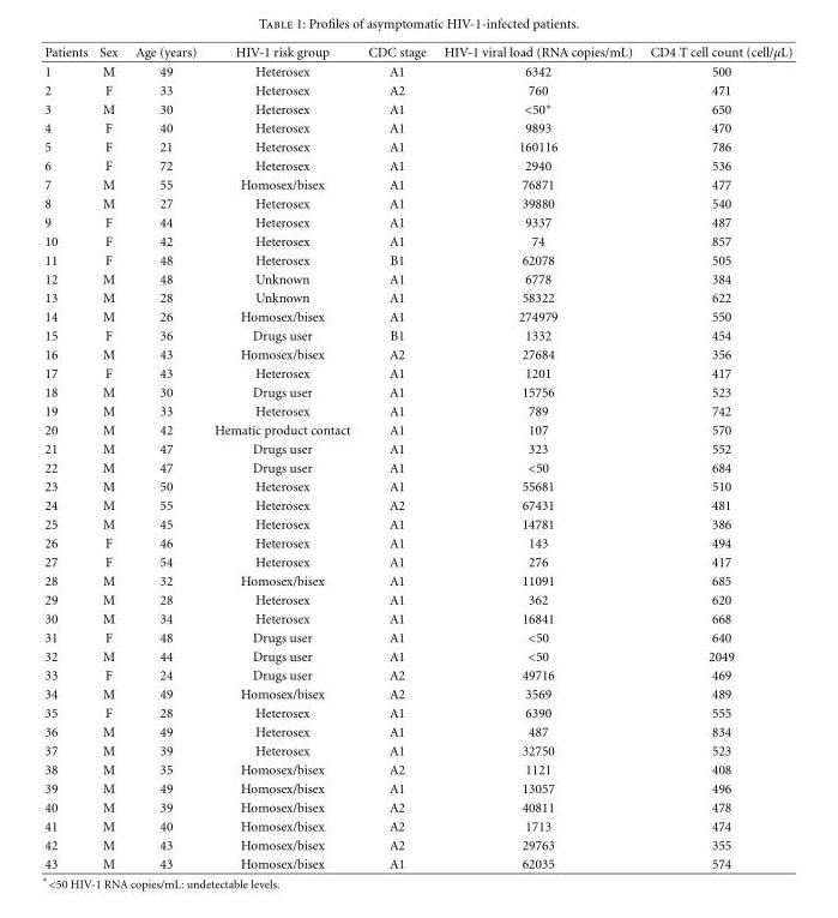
<table><thead><tr><td>Patients</td><td>Sex</td><td>Age (years)</td><td>HIV-1 risk group</td><td>CDC stage</td><td>HIV-1 viral load (RNA copies/mL)</td><td>CD4 T cell count (cell/μL)</td></tr></thead><tbody><tr><td>1</td><td>M</td><td>49</td><td>Heterosex</td><td>A1</td><td>6342</td><td>500</td></tr><tr><td>2</td><td>F</td><td>33</td><td>Heterosex</td><td>A2</td><td>760</td><td>471</td></tr><tr><td>3</td><td>M</td><td>30</td><td>Heterosex</td><td>A1</td><td>&lt;50∗</td><td>650</td></tr><tr><td>4</td><td>F</td><td>40</td><td>Heterosex</td><td>A1</td><td>9893</td><td>470</td></tr><tr><td>5</td><td>F</td><td>21</td><td>Heterosex</td><td>A1</td><td>160116</td><td>786</td></tr><tr><td>6</td><td>F</td><td>72</td><td>Heterosex</td><td>A1</td><td>2940</td><td>536</td></tr><tr><td>7</td><td>M</td><td>55</td><td>Homosex/bisex</td><td>A1</td><td>76871</td><td>477</td></tr><tr><td>8</td><td>M</td><td>27</td><td>Heterosex</td><td>A1</td><td>39880</td><td>540</td></tr><tr><td>9</td><td>F</td><td>44</td><td>Heterosex</td><td>A1</td><td>9337</td><td>487</td></tr><tr><td>10</td><td>F</td><td>42</td><td>Heterosex</td><td>A1</td><td>74</td><td>857</td></tr><tr><td>11</td><td>F</td><td>48</td><td>Heterosex</td><td>B1</td><td>62078</td><td>505</td></tr><tr><td>12</td><td>M</td><td>48</td><td>Unknown</td><td>A1</td><td>6778</td><td>384</td></tr><tr><td>13</td><td>M</td><td>28</td><td>Unknown</td><td>A1</td><td>58322</td><td>622</td></tr><tr><td>14</td><td>M</td><td>26</td><td>Homosex/bisex</td><td>A1</td><td>274979</td><td>550</td></tr><tr><td>15</td><td>F</td><td>36</td><td>Drugs user</td><td>B1</td><td>1332</td><td>454</td></tr><tr><td>16</td><td>M</td><td>43</td><td>Homosex/bisex</td><td>A2</td><td>27684</td><td>356</td></tr><tr><td>17</td><td>F</td><td>43</td><td>Heterosex</td><td>A1</td><td>1201</td><td>417</td></tr><tr><td>18</td><td>M</td><td>30</td><td>Drugs user</td><td>A1</td><td>15756</td><td>523</td></tr><tr><td>19</td><td>M</td><td>33</td><td>Heterosex</td><td>A1</td><td>789</td><td>742</td></tr><tr><td>20</td><td>M</td><td>42</td><td>Hematic product contact</td><td>A1</td><td>107</td><td>570</td></tr><tr><td>21</td><td>M</td><td>47</td><td>Drugs user</td><td>A1</td><td>323</td><td>552</td></tr><tr><td>22</td><td>M</td><td>47</td><td>Drugs user</td><td>A1</td><td>&lt;50</td><td>684</td></tr><tr><td>23</td><td>M</td><td>50</td><td>Heterosex</td><td>A1</td><td>55681</td><td>510</td></tr><tr><td>24</td><td>M</td><td>55</td><td>Heterosex</td><td>A2</td><td>67431</td><td>481</td></tr><tr><td>25</td><td>M</td><td>45</td><td>Heterosex</td><td>A1</td><td>14781</td><td>386</td></tr><tr><td>26</td><td>F</td><td>46</td><td>Heterosex</td><td>A1</td><td>143</td><td>494</td></tr><tr><td>27</td><td>F</td><td>54</td><td>Heterosex</td><td>A1</td><td>276</td><td>417</td></tr><tr><td>28</td><td>M</td><td>32</td><td>Homosex/bisex</td><td>A1</td><td>11091</td><td>685</td></tr><tr><td>29</td><td>M</td><td>28</td><td>Heterosex</td><td>A1</td><td>362</td><td>620</td></tr><tr><td>30</td><td>M</td><td>34</td><td>Heterosex</td><td>A1</td><td>16841</td><td>668</td></tr><tr><td>31</td><td>F</td><td>48</td><td>Drugs user</td><td>A1</td><td>&lt;50</td><td>640</td></tr><tr><td>32</td><td>M</td><td>44</td><td>Drugs user</td><td>A1</td><td>&lt;50</td><td>2049</td></tr><tr><td>33</td><td>F</td><td>24</td><td>Drugs user</td><td>A2</td><td>49716</td><td>469</td></tr><tr><td>34</td><td>M</td><td>49</td><td>Homosex/bisex</td><td>A2</td><td>3569</td><td>489</td></tr><tr><td>35</td><td>F</td><td>28</td><td>Heterosex</td><td>A1</td><td>6390</td><td>555</td></tr><tr><td>36</td><td>M</td><td>49</td><td>Heterosex</td><td>A1</td><td>487</td><td>834</td></tr><tr><td>37</td><td>M</td><td>39</td><td>Heterosex</td><td>A1</td><td>32750</td><td>523</td></tr><tr><td>38</td><td>M</td><td>35</td><td>Homosex/bisex</td><td>A2</td><td>1121</td><td>408</td></tr><tr><td>39</td><td>M</td><td>49</td><td>Homosex/bisex</td><td>A1</td><td>13057</td><td>496</td></tr><tr><td>40</td><td>M</td><td>39</td><td>Homosex/bisex</td><td>A2</td><td>40811</td><td>478</td></tr><tr><td>41</td><td>M</td><td>40</td><td>Homosex/bisex</td><td>A2</td><td>1713</td><td>474</td></tr><tr><td>42</td><td>M</td><td>43</td><td>Homosex/bisex</td><td>A2</td><td>29763</td><td>355</td></tr><tr><td>43</td><td>M</td><td>43</td><td>Homosex/bisex</td><td>A1</td><td>62035</td><td>574</td></tr></tbody></table>